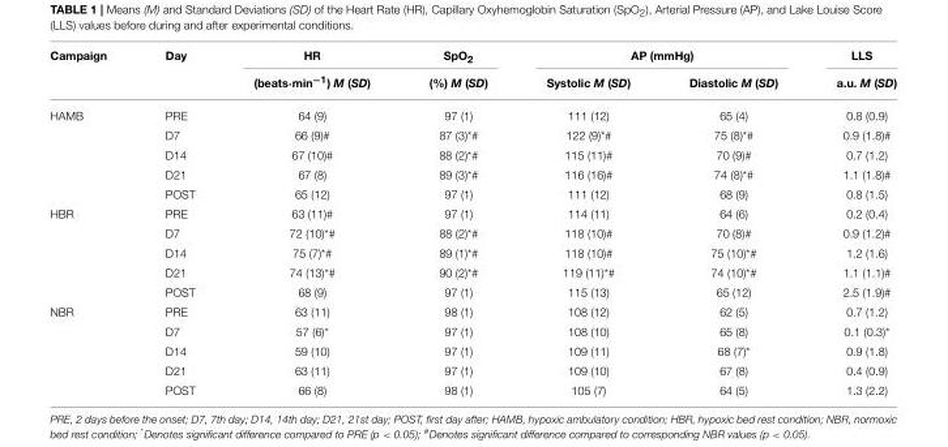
<table><thead><tr><td rowspan="2">Campaign</td><td rowspan="2">Day</td><td rowspan="2">HR (beats·min<sup>−1</sup>) M (SD)</td><td rowspan="2">SpO<sub>2</sub> (%) M (SD)</td><td colspan="2">AP (mmHg)</td><td rowspan="2">LLS a.u. M (SD)</td></tr><tr><td>Systolic M (SD)</td><td>Diastolic M (SD)</td></tr></thead><tbody><tr><td rowspan="5">HAMB</td><td>PRE</td><td>64 (9)</td><td>97 (1)</td><td>111 (12)</td><td>65 (4)</td><td>0.8 (0.9)</td></tr><tr><td>D7</td><td>66 (9)<sup>#</sup></td><td>87 (3)<sup>*#</sup></td><td>122 (9)<sup>*#</sup></td><td>75 (8)<sup>*#</sup></td><td>0.9 (1.8)<sup>#</sup></td></tr><tr><td>D14</td><td>67 (10)<sup>#</sup></td><td>88 (2)<sup>*#</sup></td><td>115 (11)<sup>#</sup></td><td>70 (9)<sup>#</sup></td><td>0.7 (1.2)</td></tr><tr><td>D21</td><td>67 (8)</td><td>89 (3)<sup>*#</sup></td><td>116 (16)<sup>#</sup></td><td>74 (8)<sup>*#</sup></td><td>1.1 (1.8)<sup>#</sup></td></tr><tr><td>POST</td><td>65 (12)</td><td>97 (1)</td><td>111 (12)</td><td>68 (9)</td><td>0.8 (1.5)</td></tr><tr><td rowspan="5">HBR</td><td>PRE</td><td>63 (11)<sup>#</sup></td><td>97 (1)</td><td>114 (11)</td><td>64 (6)</td><td>0.2 (0.4)</td></tr><tr><td>D7</td><td>72 (10)<sup>*#</sup></td><td>88 (2)<sup>*#</sup></td><td>118 (10)<sup>#</sup></td><td>70 (8)<sup>#</sup></td><td>0.9 (1.2)<sup>#</sup></td></tr><tr><td>D14</td><td>75 (7)<sup>*#</sup></td><td>89 (1)<sup>*#</sup></td><td>118 (10)<sup>#</sup></td><td>75 (10)<sup>*#</sup></td><td>1.2 (1.6)</td></tr><tr><td>D21</td><td>74 (13)<sup>*#</sup></td><td>90 (2)<sup>*#</sup></td><td>119 (11)<sup>*#</sup></td><td>74 (10)<sup>*#</sup></td><td>1.1 (1.1)<sup>#</sup></td></tr><tr><td>POST</td><td>68 (9)</td><td>97 (1)</td><td>115 (13)</td><td>65 (12)</td><td>2.5 (1.9)<sup>#</sup></td></tr><tr><td rowspan="5">NBR</td><td>PRE</td><td>63 (11)</td><td>98 (1)</td><td>108 (12)</td><td>62 (5)</td><td>0.7 (1.2)</td></tr><tr><td>D7</td><td>57 (6)*</td><td>97 (1)</td><td>108 (10)</td><td>65 (8)</td><td>0.1 (0.3)*</td></tr><tr><td>D14</td><td>59 (10)</td><td>97 (1)</td><td>109 (11)</td><td>68 (7)*</td><td>0.9 (1.8)</td></tr><tr><td>D21</td><td>63 (11)</td><td>97 (1)</td><td>109 (10)</td><td>67 (8)</td><td>0.4 (0.9)</td></tr><tr><td>POST</td><td>66 (8)</td><td>98 (1)</td><td>105 (7)</td><td>64 (5)</td><td>1.3 (2.2)</td></tr></tbody></table>